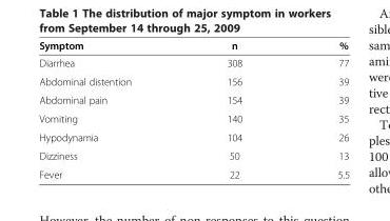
<table><thead><tr><td>Symptom</td><td>n</td><td>%</td></tr></thead><tbody><tr><td>Diarrhea</td><td>308</td><td>77</td></tr><tr><td>Abdominal distention</td><td>156</td><td>39</td></tr><tr><td>Abdominal pain</td><td>154</td><td>39</td></tr><tr><td>Vomiting</td><td>140</td><td>35</td></tr><tr><td>Hypodynamia</td><td>104</td><td>26</td></tr><tr><td>Dizziness</td><td>50</td><td>13</td></tr><tr><td>Fever</td><td>22</td><td>5.5</td></tr></tbody></table>